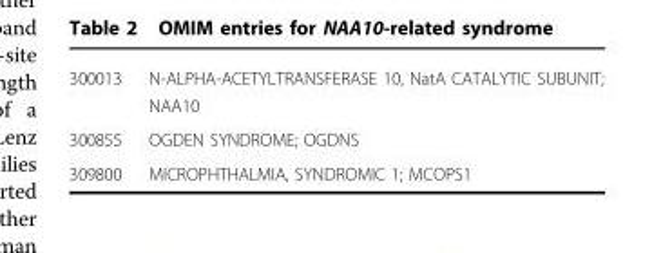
<table><tbody><tr><td>300013</td><td>N-ALPHA-ACETYLTRANSFERASE 10, NatA CATALYTIC SUBUNIT; NAA10</td></tr><tr><td>300855</td><td>OGDEN SYNDROME; OGDNS</td></tr><tr><td>309800</td><td>MICROPHTHALMIA, SYNDROMIC 1; MCOPS1</td></tr></tbody></table>